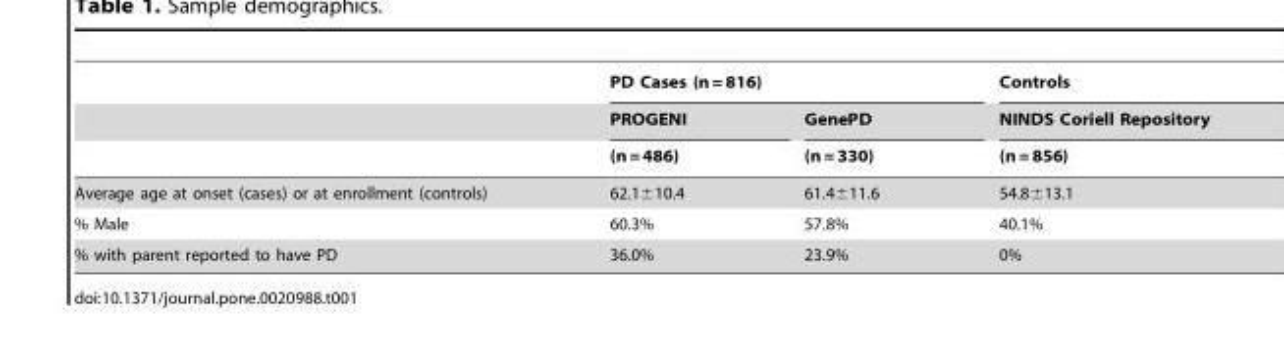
<table><thead><tr><td rowspan="3"></td><td colspan="2">PD Cases (n = 816)</td><td rowspan="3">Controls NINDS Coriell Repository (n = 856)</td></tr><tr><td rowspan="2">PROGENI (n = 486)</td><td rowspan="2">GenePD (n = 330)</td></tr><tr></tr></thead><tbody><tr><td>Average age at onset (cases) or at enrollment (controls)</td><td>62.1±10.4</td><td>61.4±11.6</td><td>54.8±13.1</td></tr><tr><td>% Male</td><td>60.3%</td><td>57.8%</td><td>40.1%</td></tr><tr><td>% with parent reported to have PD</td><td>36.0%</td><td>23.9%</td><td>0%</td></tr></tbody></table>